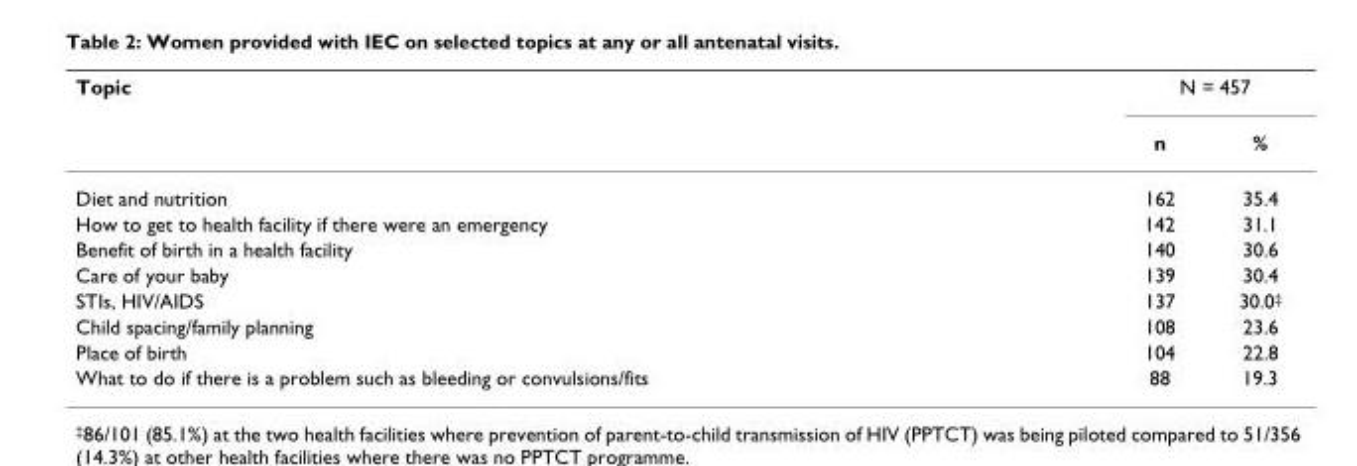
<table><thead><tr><td rowspan="2">Topic</td><td colspan="2">N = 457</td></tr><tr><td>n</td><td>%</td></tr></thead><tbody><tr><td>Diet and nutrition</td><td>162</td><td>35.4</td></tr><tr><td>How to get to health facility if there were an emergency</td><td>142</td><td>31.1</td></tr><tr><td>Benefit of birth in a health facility</td><td>140</td><td>30.6</td></tr><tr><td>Care of your baby</td><td>139</td><td>30.4</td></tr><tr><td>STIs, HIV/AIDS</td><td>137</td><td>30.0<sup>‡</sup></td></tr><tr><td>Child spacing/family planning</td><td>108</td><td>23.6</td></tr><tr><td>Place of birth</td><td>104</td><td>22.8</td></tr><tr><td>What to do if there is a problem such as bleeding or convulsions/fits</td><td>88</td><td>19.3</td></tr></tbody></table>